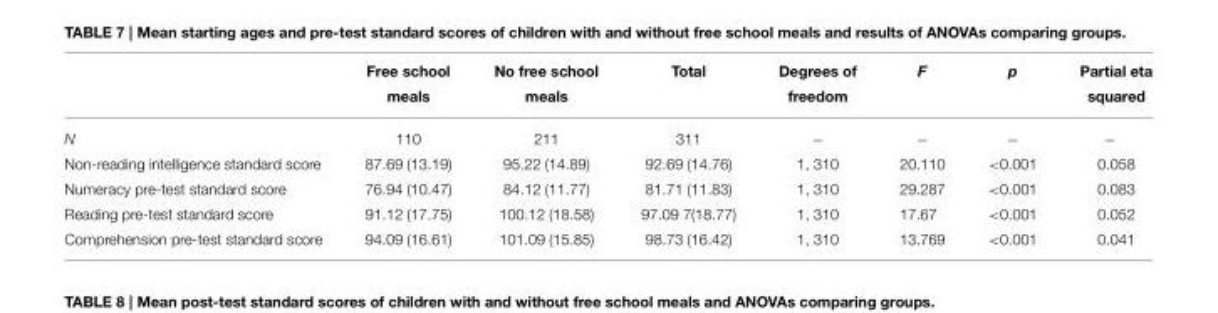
<table><thead><tr><td></td><td>Free school meals</td><td>No free school meals</td><td>Total</td><td>Degrees of freedom</td><td>F</td><td>p</td><td>Partial eta squared</td></tr></thead><tbody><tr><td>N</td><td>110</td><td>211</td><td>311</td><td>−</td><td>−</td><td>−</td><td>−</td></tr><tr><td>Non-reading intelligence standard score</td><td>87.69 (13.19)</td><td>95.22 (14.89)</td><td>92.69 (14.76)</td><td>1, 310</td><td>20.110</td><td>&lt;0.001</td><td>0.058</td></tr><tr><td>Numeracy pre-test standard score</td><td>76.94 (10.47)</td><td>84.12 (11.77)</td><td>81.71 (11.83)</td><td>1, 310</td><td>29.287</td><td>&lt;0.001</td><td>0.083</td></tr><tr><td>Reading pre-test standard score</td><td>91.12 (17.75)</td><td>100.12 (18.58)</td><td>97.09 7(18.77)</td><td>1, 310</td><td>17.67</td><td>&lt;0.001</td><td>0.052</td></tr><tr><td>Comprehension pre-test standard score</td><td>94.09 (16.61)</td><td>101.09 (15.85)</td><td>98.73 (16.42)</td><td>1, 310</td><td>13.769</td><td>&lt;0.001</td><td>0.041</td></tr></tbody></table>